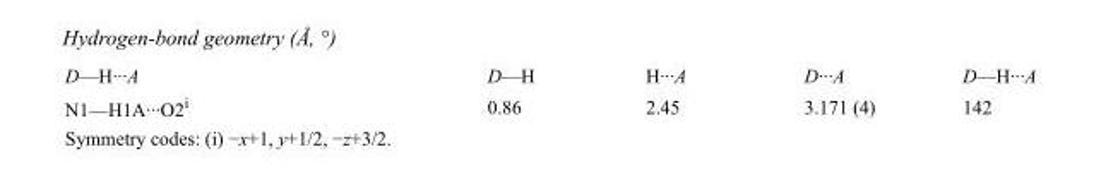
<table><tbody><tr><td>D—H···A</td><td>D—H</td><td>H···A</td><td>D···A</td><td>D—H···A</td></tr><tr><td>N1—H1A···O2<sup>i</sup></td><td>0.86</td><td>2.45</td><td>3.171 (4)</td><td>142</td></tr></tbody></table>